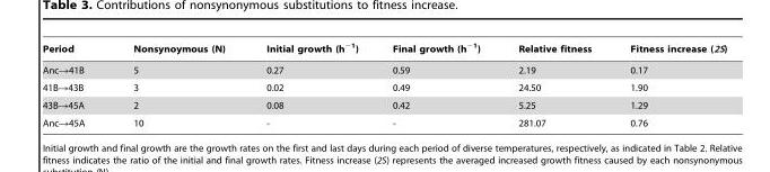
<table><thead><tr><td>Period</td><td>Nonsynoymous (N)</td><td>Initial growth (h<sup>−1</sup>)</td><td>Final growth (h<sup>−1</sup>)</td><td>Relative fitness</td><td>Fitness increase (2S)</td></tr></thead><tbody><tr><td>Anc→41B</td><td>5</td><td>0.27</td><td>0.59</td><td>2.19</td><td>0.17</td></tr><tr><td>41B→43B</td><td>3</td><td>0.02</td><td>0.49</td><td>24.50</td><td>1.90</td></tr><tr><td>43B→45A</td><td>2</td><td>0.08</td><td>0.42</td><td>5.25</td><td>1.29</td></tr><tr><td>Anc→45A</td><td>10</td><td>-</td><td>-</td><td>281.07</td><td>0.76</td></tr></tbody></table>